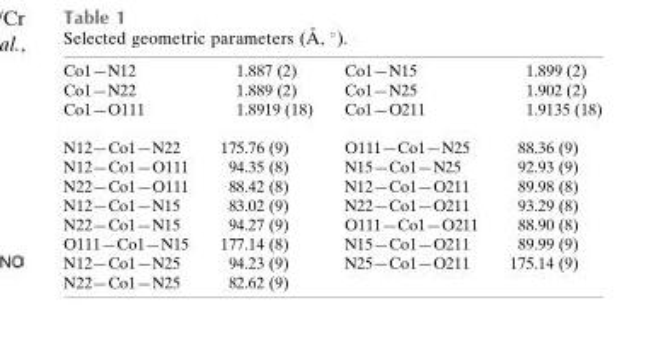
<table><tbody><tr><td>Co1—N12</td><td>1.887 (2)</td><td>Co1—N15</td><td>1.899 (2)</td></tr><tr><td>Co1—N22</td><td>1.889 (2)</td><td>Co1—N25</td><td>1.902 (2)</td></tr><tr><td>Co1—O111</td><td>1.8919 (18)</td><td>Co1—O211</td><td>1.9135 (18)</td></tr><tr><td>N12—Co1—N22</td><td>175.76 (9)</td><td>O111—Co1—N25</td><td>88.36 (9)</td></tr><tr><td>N12—Co1—O111</td><td>94.35 (8)</td><td>N15—Co1—N25</td><td>92.93 (9)</td></tr><tr><td>N22—Co1—O111</td><td>88.42 (8)</td><td>N12—Co1—O211</td><td>89.98 (8)</td></tr><tr><td>N12—Co1—N15</td><td>83.02 (9)</td><td>N22—Co1—O211</td><td>93.29 (8)</td></tr><tr><td>N22—Co1—N15</td><td>94.27 (9)</td><td>O111—Co1—O211</td><td>88.90 (8)</td></tr><tr><td>O111—Co1—N15</td><td>177.14 (8)</td><td>N15—Co1—O211</td><td>89.99 (9)</td></tr><tr><td>N12—Co1—N25</td><td>94.23 (9)</td><td>N25—Co1—O211</td><td>175.14 (9)</td></tr><tr><td>N22—Co1—N25</td><td>82.62 (9)</td><td></td><td></td></tr></tbody></table>